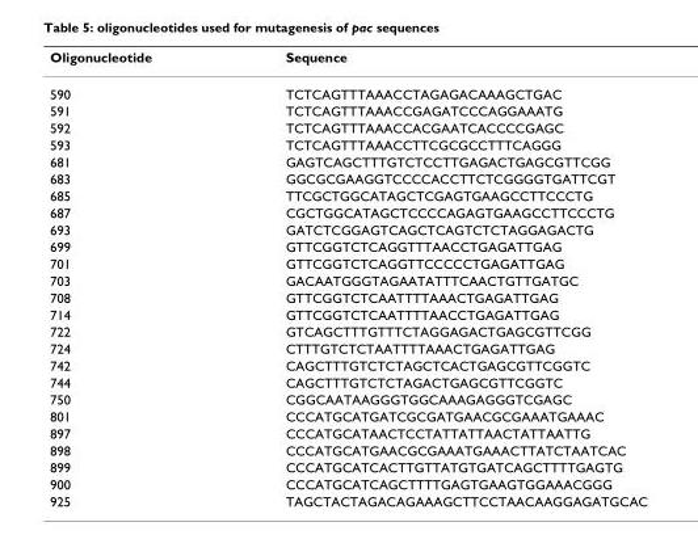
<table><thead><tr><td>Oligonucleotide</td><td>Sequence</td></tr></thead><tbody><tr><td>590</td><td>TCTCAGTTTAAACCTAGAGACAAAGCTGAC</td></tr><tr><td>591</td><td>TCTCAGTTTAAACCGAGATCCCAGGAAATG</td></tr><tr><td>592</td><td>TCTCAGTTTAAACCACGAATCACCCCGAGC</td></tr><tr><td>593</td><td>TCTCAGTTTAAACCTTCGCGCCTTTCAGGG</td></tr><tr><td>681</td><td>GAGTCAGCTTTGTCTCCTTGAGACTGAGCGTTCGG</td></tr><tr><td>683</td><td>GGCGCGAAGGTCCCCACCTTCTCGGGGTGATTCGT</td></tr><tr><td>685</td><td>TTCGCTGGCATAGCTCGAGTGAAGCCTTCCCTG</td></tr><tr><td>687</td><td>CGCTGGCATAGCTCCCCAGAGTGAAGCCTTCCCTG</td></tr><tr><td>693</td><td>GATCTCGGAGTCAGCTCAGTCTCTAGGAGACTG</td></tr><tr><td>699</td><td>GTTCGGTCTCAGGTTTAACCTGAGATTGAG</td></tr><tr><td>701</td><td>GTTCGGTCTCAGGTTCCCCCTGAGATTGAG</td></tr><tr><td>703</td><td>GACAATGGGTAGAATATTTCAACTGTTGATGC</td></tr><tr><td>708</td><td>GTTCGGTCTCAATTTTAAACTGAGATTGAG</td></tr><tr><td>714</td><td>GTTCGGTCTCAATTTTAACCTGAGATTGAG</td></tr><tr><td>722</td><td>GTCAGCTTTGTTTCTAGGAGACTGAGCGTTCGG</td></tr><tr><td>724</td><td>CTTTGTCTCTAATTTTAAACTGAGATTGAG</td></tr><tr><td>742</td><td>CAGCTTTGTCTCTAGCTCACTGAGCGTTCGGTC</td></tr><tr><td>744</td><td>CAGCTTTGTCTCTAGACTGAGCGTTCGGTC</td></tr><tr><td>750</td><td>CGGCAATAAGGGTGGCAAAGAGGGTCGAGC</td></tr><tr><td>801</td><td>CCCATGCATGATCGCGATGAACGCGAAATGAAAC</td></tr><tr><td>897</td><td>CCCATGCATAACTCCTATTATTAACTATTAATTG</td></tr><tr><td>898</td><td>CCCATGCATGAACGCGAAATGAAACTTATCTAATCAC</td></tr><tr><td>899</td><td>CCCATGCATCACTTGTTATGTGATCAGCTTTTGAGTG</td></tr><tr><td>900</td><td>CCCATGCATCAGCTTTTGAGTGAAGTGGAAACGGG</td></tr><tr><td>925</td><td>TAGCTACTAGACAGAAAGCTTCCTAACAAGGAGATGCAC</td></tr></tbody></table>